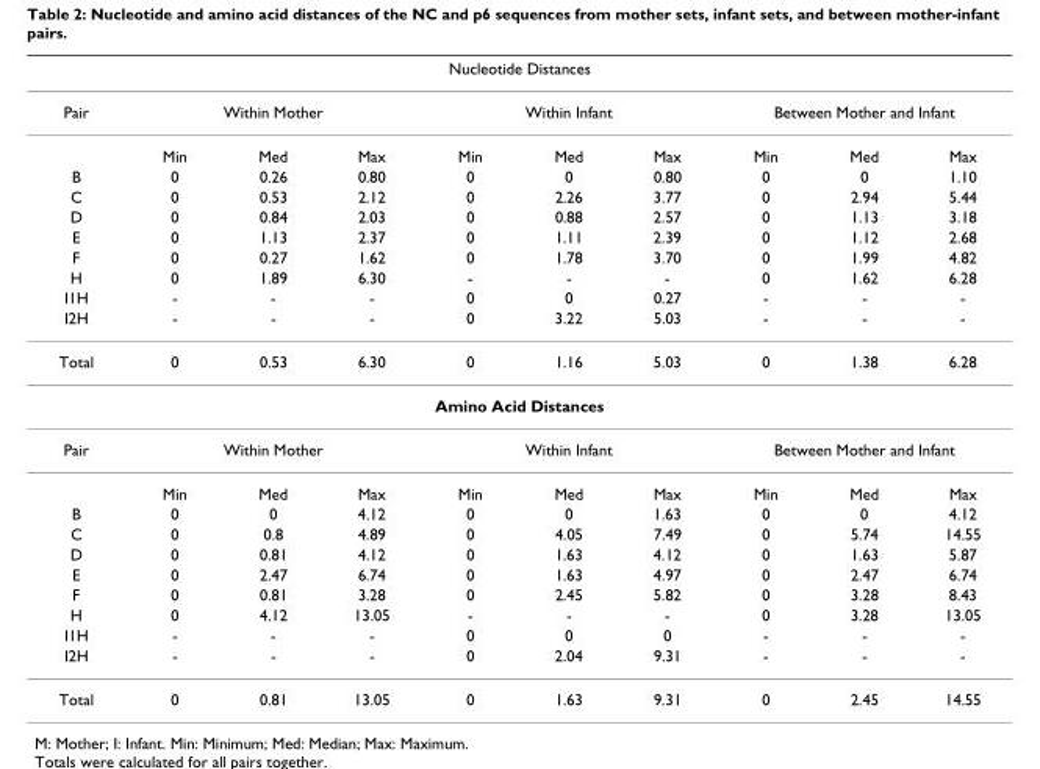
<table><thead><tr><td colspan="10">Nucleotide Distances</td></tr><tr><td rowspan="2">Pair</td><td colspan="3">Within Mother</td><td colspan="3">Within Infant</td><td colspan="3">Between Mother and Infant</td></tr><tr><td>Min</td><td>Med</td><td>Max</td><td>Min</td><td>Med</td><td>Max</td><td>Min</td><td>Med</td><td>Max</td></tr></thead><tbody><tr><td>B</td><td>0</td><td>0.26</td><td>0.80</td><td>0</td><td>0</td><td>0.80</td><td>0</td><td>0</td><td>1.10</td></tr><tr><td>C</td><td>0</td><td>0.53</td><td>2.12</td><td>0</td><td>2.26</td><td>3.77</td><td>0</td><td>2.94</td><td>5.44</td></tr><tr><td>D</td><td>0</td><td>0.84</td><td>2.03</td><td>0</td><td>0.88</td><td>2.57</td><td>0</td><td>1.13</td><td>3.18</td></tr><tr><td>E</td><td>0</td><td>1.13</td><td>2.37</td><td>0</td><td>1.11</td><td>2.39</td><td>0</td><td>1.12</td><td>2.68</td></tr><tr><td>F</td><td>0</td><td>0.27</td><td>1.62</td><td>0</td><td>1.78</td><td>3.70</td><td>0</td><td>1.99</td><td>4.82</td></tr><tr><td>H</td><td>0</td><td>1.89</td><td>6.30</td><td>-</td><td>-</td><td>-</td><td>0</td><td>1.62</td><td>6.28</td></tr><tr><td>I1H</td><td>-</td><td>-</td><td>-</td><td>0</td><td>0</td><td>0.27</td><td>-</td><td>-</td><td>-</td></tr><tr><td>I2H</td><td>-</td><td>-</td><td>-</td><td>0</td><td>3.22</td><td>5.03</td><td>-</td><td>-</td><td>-</td></tr><tr><td>Total</td><td>0</td><td>0.53</td><td>6.30</td><td>0</td><td>1.16</td><td>5.03</td><td>0</td><td>1.38</td><td>6.28</td></tr><tr><td colspan="10">Amino Acid Distances</td></tr><tr><td rowspan="2">Pair</td><td colspan="3">Within Mother</td><td colspan="3">Within Infant</td><td colspan="3">Between Mother and Infant</td></tr><tr><td>Min</td><td>Med</td><td>Max</td><td>Min</td><td>Med</td><td>Max</td><td>Min</td><td>Med</td><td>Max</td></tr><tr><td>B</td><td>0</td><td>0</td><td>4.12</td><td>0</td><td>0</td><td>1.63</td><td>0</td><td>0</td><td>4.12</td></tr><tr><td>C</td><td>0</td><td>0.8</td><td>4.89</td><td>0</td><td>4.05</td><td>7.49</td><td>0</td><td>5.74</td><td>14.55</td></tr><tr><td>D</td><td>0</td><td>0.81</td><td>4.12</td><td>0</td><td>1.63</td><td>4.12</td><td>0</td><td>1.63</td><td>5.87</td></tr><tr><td>E</td><td>0</td><td>2.47</td><td>6.74</td><td>0</td><td>1.63</td><td>4.97</td><td>0</td><td>2.47</td><td>6.74</td></tr><tr><td>F</td><td>0</td><td>0.81</td><td>3.28</td><td>0</td><td>2.45</td><td>5.82</td><td>0</td><td>3.28</td><td>8.43</td></tr><tr><td>H</td><td>0</td><td>4.12</td><td>13.05</td><td>-</td><td>-</td><td>-</td><td>0</td><td>3.28</td><td>13.05</td></tr><tr><td>I1H</td><td>-</td><td>-</td><td>-</td><td>0</td><td>0</td><td>0</td><td>-</td><td>-</td><td>-</td></tr><tr><td>I2H</td><td>-</td><td>-</td><td>-</td><td>0</td><td>2.04</td><td>9.31</td><td>-</td><td>-</td><td>-</td></tr><tr><td>Total</td><td>0</td><td>0.81</td><td>13.05</td><td>0</td><td>1.63</td><td>9.31</td><td>0</td><td>2.45</td><td>14.55</td></tr></tbody></table>